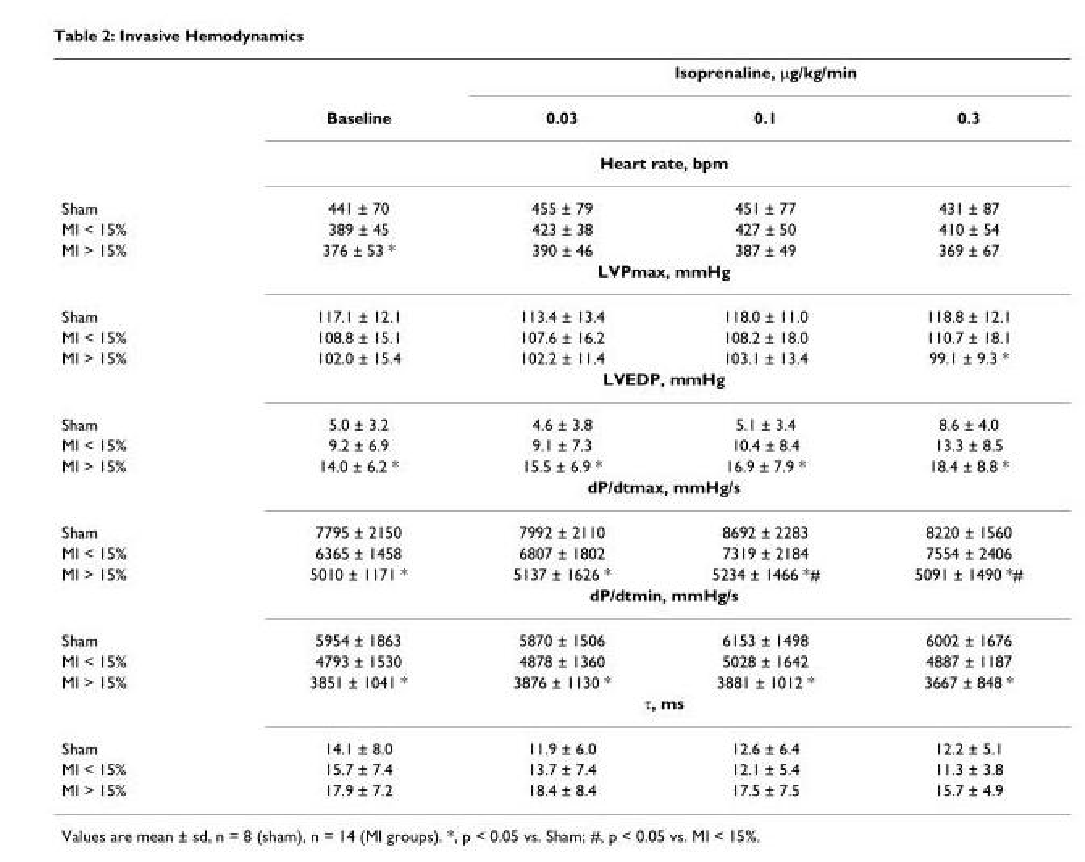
<table><thead><tr><td rowspan="2"></td><td rowspan="2">Baseline</td><td colspan="3">Isoprenaline, μg/kg/min</td></tr><tr><td>0.03</td><td>0.1</td><td>0.3</td></tr></thead><tbody><tr><td></td><td colspan="4">Heart rate, bpm</td></tr><tr><td>Sham</td><td>441 ± 70</td><td>455 ± 79</td><td>451 ± 77</td><td>431 ± 87</td></tr><tr><td>MI &lt; 15%</td><td>389 ± 45</td><td>423 ± 38</td><td>427 ± 50</td><td>410 ± 54</td></tr><tr><td rowspan="2">MI &gt; 15%</td><td>376 ± 53 *</td><td>390 ± 46</td><td>387 ± 49</td><td>369 ± 67</td></tr><tr><td colspan="4">LVPmax, mmHg</td></tr><tr><td>Sham</td><td>117.1 ± 12.1</td><td>113.4 ± 13.4</td><td>118.0 ± 11.0</td><td>118.8 ± 12.1</td></tr><tr><td>MI &lt; 15%</td><td>108.8 ± 15.1</td><td>107.6 ± 16.2</td><td>108.2 ± 18.0</td><td>110.7 ± 18.1</td></tr><tr><td rowspan="2">MI &gt; 15%</td><td>102.0 ± 15.4</td><td>102.2 ± 11.4</td><td>103.1 ± 13.4</td><td>99.1 ± 9.3 *</td></tr><tr><td colspan="4">LVEDP, mmHg</td></tr><tr><td>Sham</td><td>5.0 ± 3.2</td><td>4.6 ± 3.8</td><td>5.1 ± 3.4</td><td>8.6 ± 4.0</td></tr><tr><td>MI &lt; 15%</td><td>9.2 ± 6.9</td><td>9.1 ± 7.3</td><td>10.4 ± 8.4</td><td>13.3 ± 8.5</td></tr><tr><td rowspan="2">MI &gt; 15%</td><td>14.0 ± 6.2 *</td><td>15.5 ± 6.9 *</td><td>16.9 ± 7.9 *</td><td>18.4 ± 8.8 *</td></tr><tr><td colspan="4">dP/dtmax, mmHg/s</td></tr><tr><td>Sham</td><td>7795 ± 2150</td><td>7992 ± 2110</td><td>8692 ± 2283</td><td>8220 ± 1560</td></tr><tr><td>MI &lt; 15%</td><td>6365 ± 1458</td><td>6807 ± 1802</td><td>7319 ± 2184</td><td>7554 ± 2406</td></tr><tr><td rowspan="2">MI &gt; 15%</td><td>5010 ± 1171 *</td><td>5137 ± 1626 *</td><td>5234 ± 1466 *#</td><td>5091 ± 1490 *#</td></tr><tr><td colspan="4">dP/dtmin, mmHg/s</td></tr><tr><td>Sham</td><td>5954 ± 1863</td><td>5870 ± 1506</td><td>6153 ± 1498</td><td>6002 ± 1676</td></tr><tr><td>MI &lt; 15%</td><td>4793 ± 1530</td><td>4878 ± 1360</td><td>5028 ± 1642</td><td>4887 ± 1187</td></tr><tr><td rowspan="2">MI &gt; 15%</td><td>3851 ± 1041 *</td><td>3876 ± 1130 *</td><td>3881 ± 1012 *</td><td>3667 ± 848 *</td></tr><tr><td colspan="4">τ, ms</td></tr><tr><td>Sham</td><td>14.1 ± 8.0</td><td>11.9 ± 6.0</td><td>12.6 ± 6.4</td><td>12.2 ± 5.1</td></tr><tr><td>MI &lt; 15%</td><td>15.7 ± 7.4</td><td>13.7 ± 7.4</td><td>12.1 ± 5.4</td><td>11.3 ± 3.8</td></tr><tr><td>MI &gt; 15%</td><td>17.9 ± 7.2</td><td>18.4 ± 8.4</td><td>17.5 ± 7.5</td><td>15.7 ± 4.9</td></tr></tbody></table>